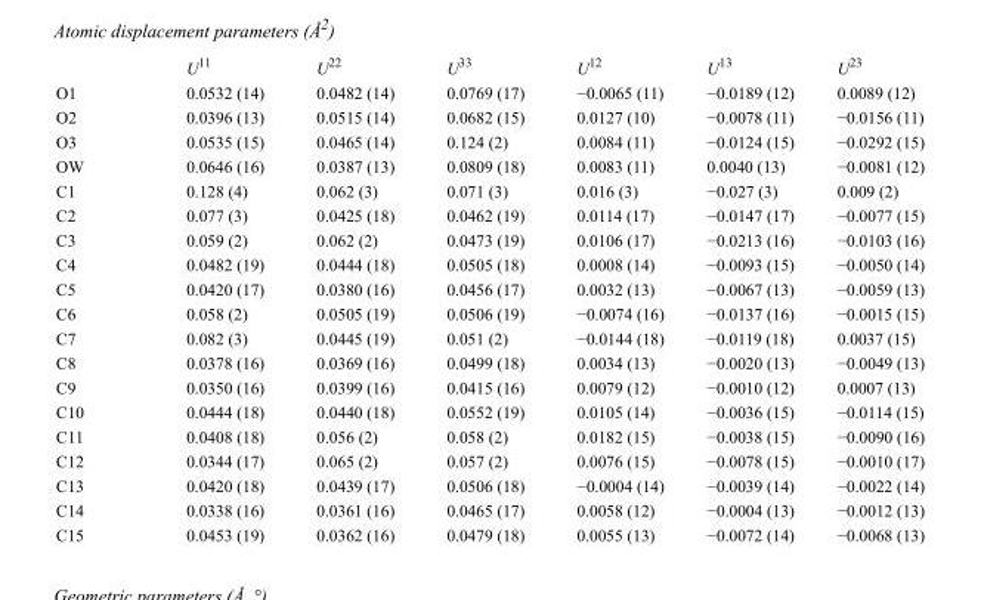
<table><thead><tr><td></td><td>U<sup>11</sup></td><td>U<sup>22</sup></td><td>U<sup>33</sup></td><td>U<sup>12</sup></td><td>U<sup>13</sup></td><td>U<sup>23</sup></td></tr></thead><tbody><tr><td>O1</td><td>0.0532 (14)</td><td>0.0482 (14)</td><td>0.0769 (17)</td><td>−0.0065 (11)</td><td>−0.0189 (12)</td><td>0.0089 (12)</td></tr><tr><td>O2</td><td>0.0396 (13)</td><td>0.0515 (14)</td><td>0.0682 (15)</td><td>0.0127 (10)</td><td>−0.0078 (11)</td><td>−0.0156 (11)</td></tr><tr><td>O3</td><td>0.0535 (15)</td><td>0.0465 (14)</td><td>0.124 (2)</td><td>0.0084 (11)</td><td>−0.0124 (15)</td><td>−0.0292 (15)</td></tr><tr><td>OW</td><td>0.0646 (16)</td><td>0.0387 (13)</td><td>0.0809 (18)</td><td>0.0083 (11)</td><td>0.0040 (13)</td><td>−0.0081 (12)</td></tr><tr><td>C1</td><td>0.128 (4)</td><td>0.062 (3)</td><td>0.071 (3)</td><td>0.016 (3)</td><td>−0.027 (3)</td><td>0.009 (2)</td></tr><tr><td>C2</td><td>0.077 (3)</td><td>0.0425 (18)</td><td>0.0462 (19)</td><td>0.0114 (17)</td><td>−0.0147 (17)</td><td>−0.0077 (15)</td></tr><tr><td>C3</td><td>0.059 (2)</td><td>0.062 (2)</td><td>0.0473 (19)</td><td>0.0106 (17)</td><td>−0.0213 (16)</td><td>−0.0103 (16)</td></tr><tr><td>C4</td><td>0.0482 (19)</td><td>0.0444 (18)</td><td>0.0505 (18)</td><td>0.0008 (14)</td><td>−0.0093 (15)</td><td>−0.0050 (14)</td></tr><tr><td>C5</td><td>0.0420 (17)</td><td>0.0380 (16)</td><td>0.0456 (17)</td><td>0.0032 (13)</td><td>−0.0067 (13)</td><td>−0.0059 (13)</td></tr><tr><td>C6</td><td>0.058 (2)</td><td>0.0505 (19)</td><td>0.0506 (19)</td><td>−0.0074 (16)</td><td>−0.0137 (16)</td><td>−0.0015 (15)</td></tr><tr><td>C7</td><td>0.082 (3)</td><td>0.0445 (19)</td><td>0.051 (2)</td><td>−0.0144 (18)</td><td>−0.0119 (18)</td><td>0.0037 (15)</td></tr><tr><td>C8</td><td>0.0378 (16)</td><td>0.0369 (16)</td><td>0.0499 (18)</td><td>0.0034 (13)</td><td>−0.0020 (13)</td><td>−0.0049 (13)</td></tr><tr><td>C9</td><td>0.0350 (16)</td><td>0.0399 (16)</td><td>0.0415 (16)</td><td>0.0079 (12)</td><td>−0.0010 (12)</td><td>0.0007 (13)</td></tr><tr><td>C10</td><td>0.0444 (18)</td><td>0.0440 (18)</td><td>0.0552 (19)</td><td>0.0105 (14)</td><td>−0.0036 (15)</td><td>−0.0114 (15)</td></tr><tr><td>C11</td><td>0.0408 (18)</td><td>0.056 (2)</td><td>0.058 (2)</td><td>0.0182 (15)</td><td>−0.0038 (15)</td><td>−0.0090 (16)</td></tr><tr><td>C12</td><td>0.0344 (17)</td><td>0.065 (2)</td><td>0.057 (2)</td><td>0.0076 (15)</td><td>−0.0078 (15)</td><td>−0.0010 (17)</td></tr><tr><td>C13</td><td>0.0420 (18)</td><td>0.0439 (17)</td><td>0.0506 (18)</td><td>−0.0004 (14)</td><td>−0.0039 (14)</td><td>−0.0022 (14)</td></tr><tr><td>C14</td><td>0.0338 (16)</td><td>0.0361 (16)</td><td>0.0465 (17)</td><td>0.0058 (12)</td><td>−0.0004 (13)</td><td>−0.0012 (13)</td></tr><tr><td>C15</td><td>0.0453 (19)</td><td>0.0362 (16)</td><td>0.0479 (18)</td><td>0.0055 (13)</td><td>−0.0072 (14)</td><td>−0.0068 (13)</td></tr></tbody></table>